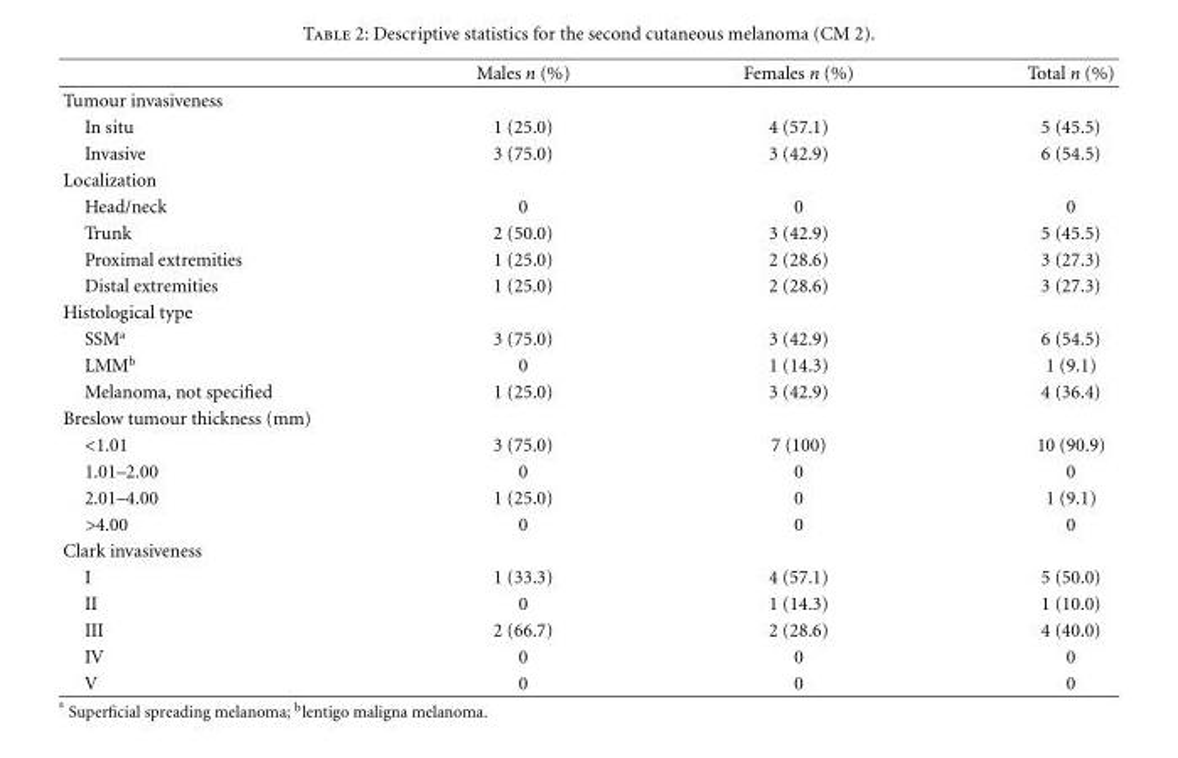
<table><thead><tr><td></td><td>Males n (%)</td><td>Females n (%)</td><td>Total n (%)</td></tr></thead><tbody><tr><td colspan="4">Tumour invasiveness</td></tr><tr><td>In situ</td><td>1 (25.0)</td><td>4 (57.1)</td><td>5 (45.5)</td></tr><tr><td>Invasive</td><td>3 (75.0)</td><td>3 (42.9)</td><td>6 (54.5)</td></tr><tr><td colspan="4">Localization</td></tr><tr><td>Head/neck</td><td>0</td><td>0</td><td>0</td></tr><tr><td>Trunk</td><td>2 (50.0)</td><td>3 (42.9)</td><td>5 (45.5)</td></tr><tr><td>Proximal extremities</td><td>1 (25.0)</td><td>2 (28.6)</td><td>3 (27.3)</td></tr><tr><td>Distal extremities</td><td>1 (25.0)</td><td>2 (28.6)</td><td>3 (27.3)</td></tr><tr><td colspan="4">Histological type</td></tr><tr><td>SSM<sup>a</sup></td><td>3 (75.0)</td><td>3 (42.9)</td><td>6 (54.5)</td></tr><tr><td>LMM<sup>b</sup></td><td>0</td><td>1 (14.3)</td><td>1 (9.1)</td></tr><tr><td>Melanoma, not specified</td><td>1 (25.0)</td><td>3 (42.9)</td><td>4 (36.4)</td></tr><tr><td colspan="4">Breslow tumour thickness (mm)</td></tr><tr><td>&lt;1.01</td><td>3 (75.0)</td><td>7 (100)</td><td>10 (90.9)</td></tr><tr><td>1.01–2.00</td><td>0</td><td>0</td><td>0</td></tr><tr><td>2.01–4.00</td><td>1 (25.0)</td><td>0</td><td>1 (9.1)</td></tr><tr><td>&gt;4.00</td><td>0</td><td>0</td><td>0</td></tr><tr><td colspan="4">Clark invasiveness</td></tr><tr><td>I</td><td>1 (33.3)</td><td>4 (57.1)</td><td>5 (50.0)</td></tr><tr><td>II</td><td>0</td><td>1 (14.3)</td><td>1 (10.0)</td></tr><tr><td>III</td><td>2 (66.7)</td><td>2 (28.6)</td><td>4 (40.0)</td></tr><tr><td>IV</td><td>0</td><td>0</td><td>0</td></tr><tr><td>V</td><td>0</td><td>0</td><td>0</td></tr></tbody></table>